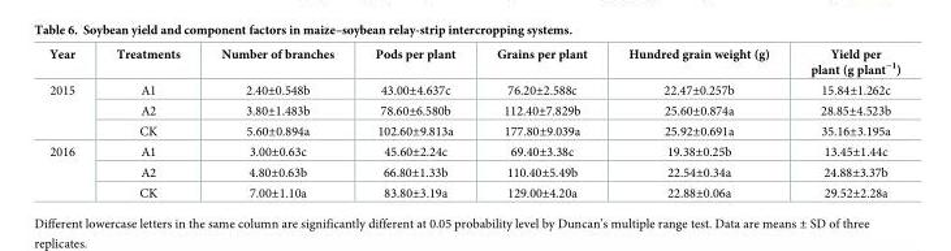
<table><thead><tr><td>Year</td><td>Treatments</td><td>Number of branches</td><td>Pods per plant</td><td>Grains per plant</td><td>Hundred grain weight (g)</td><td>Yield per plant (g plant<sup>−1</sup>)</td></tr></thead><tbody><tr><td rowspan="3">2015</td><td>A1</td><td>2.40±0.548b</td><td>43.00±4.637c</td><td>76.20±2.588c</td><td>22.47±0.257b</td><td>15.84±1.262c</td></tr><tr><td>A2</td><td>3.80±1.483b</td><td>78.60±6.580b</td><td>112.40±7.829b</td><td>25.60±0.874a</td><td>28.85±4.523b</td></tr><tr><td>CK</td><td>5.60±0.894a</td><td>102.60±9.813a</td><td>177.80±9.039a</td><td>25.92±0.691a</td><td>35.16±3.195a</td></tr><tr><td rowspan="3">2016</td><td>A1</td><td>3.00±0.63c</td><td>45.60±2.24c</td><td>69.40±3.38c</td><td>19.38±0.25b</td><td>13.45±1.44c</td></tr><tr><td>A2</td><td>4.80±0.63b</td><td>66.80±1.33b</td><td>110.40±5.49b</td><td>22.54±0.34a</td><td>24.88±3.37b</td></tr><tr><td>CK</td><td>7.00±1.10a</td><td>83.80±3.19a</td><td>129.00±4.20a</td><td>22.88±0.06a</td><td>29.52±2.28a</td></tr></tbody></table>